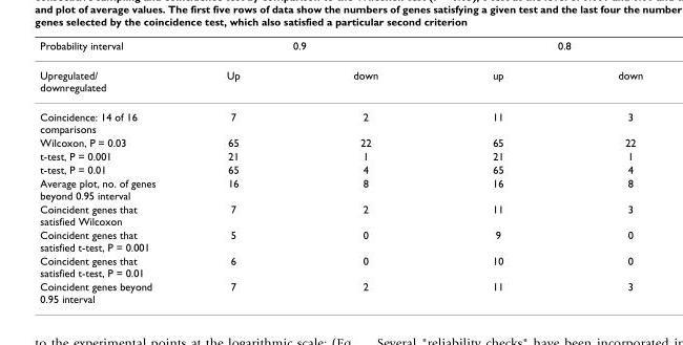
<table><thead><tr><td rowspan="2">Probability interval Upregulated/ downregulated</td><td colspan="2">0.9</td><td colspan="2">0.8</td></tr><tr><td>Up</td><td>down</td><td>up</td><td>down</td></tr></thead><tbody><tr><td>Coincidence: 14 of 16 comparisons</td><td>7</td><td>2</td><td>11</td><td>3</td></tr><tr><td>Wilcoxon, P = 0.03</td><td>65</td><td>22</td><td>65</td><td>22</td></tr><tr><td>t-test, P = 0.001</td><td>21</td><td>1</td><td>21</td><td>1</td></tr><tr><td>t-test, P = 0.01</td><td>65</td><td>4</td><td>65</td><td>4</td></tr><tr><td>Average plot, no. of genes beyond 0.95 interval</td><td>16</td><td>8</td><td>16</td><td>8</td></tr><tr><td>Coincident genes that satisfied Wilcoxon</td><td>7</td><td>2</td><td>11</td><td>3</td></tr><tr><td>Coincident genes that satisfied t-test, P = 0.001</td><td>5</td><td>0</td><td>9</td><td>0</td></tr><tr><td>Coincident genes that satisfied t-test, P = 0.01</td><td>6</td><td>0</td><td>10</td><td>0</td></tr><tr><td>Coincident genes beyond 0.95 interval</td><td>7</td><td>2</td><td>11</td><td>3</td></tr></tbody></table>